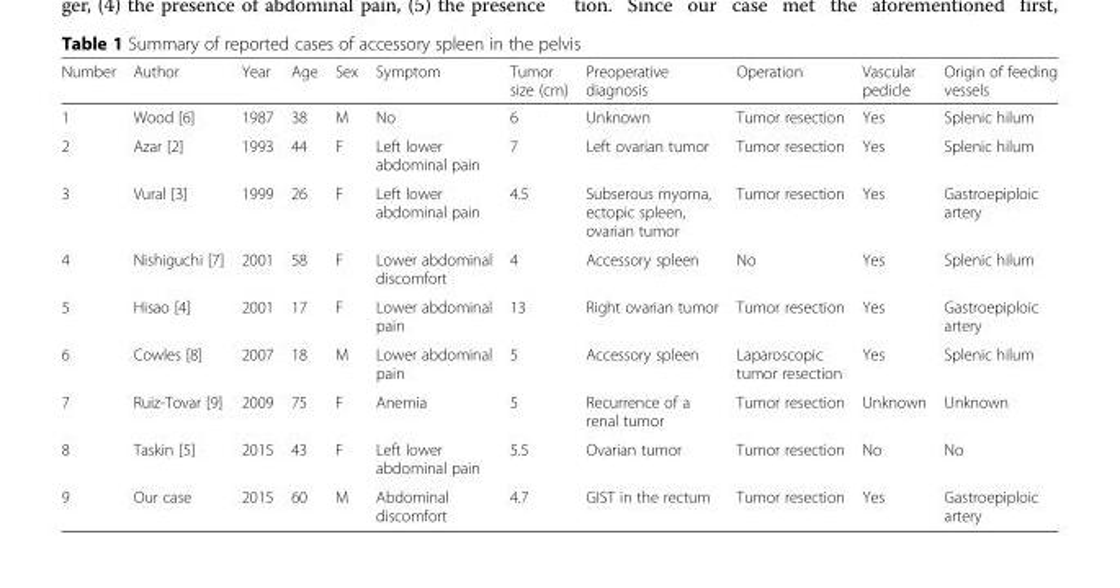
<table><thead><tr><td>Number</td><td>Author</td><td>Year</td><td>Age</td><td>Sex</td><td>Symptom</td><td>Tumor size (cm)</td><td>Preoperative diagnosis</td><td>Operation</td><td>Vascular pedicle</td><td>Origin of feeding vessels</td></tr></thead><tbody><tr><td>1</td><td>Wood [6]</td><td>1987</td><td>38</td><td>M</td><td>No</td><td>6</td><td>Unknown</td><td>Tumor resection</td><td>Yes</td><td>Splenic hilum</td></tr><tr><td>2</td><td>Azar [2]</td><td>1993</td><td>44</td><td>F</td><td>Left lower abdominal pain</td><td>7</td><td>Left ovarian tumor</td><td>Tumor resection</td><td>Yes</td><td>Splenic hilum</td></tr><tr><td>3</td><td>Vural [3]</td><td>1999</td><td>26</td><td>F</td><td>Left lower abdominal pain</td><td>4.5</td><td>Subserous myoma, ectopic spleen, ovarian tumor</td><td>Tumor resection</td><td>Yes</td><td>Gastroepiploic artery</td></tr><tr><td>4</td><td>Nishiguchi [7]</td><td>2001</td><td>58</td><td>F</td><td>Lower abdominal discomfort</td><td>4</td><td>Accessory spleen</td><td>No</td><td>Yes</td><td>Splenic hilum</td></tr><tr><td>5</td><td>Hisao [4]</td><td>2001</td><td>17</td><td>F</td><td>Lower abdominal pain</td><td>13</td><td>Right ovarian tumor</td><td>Tumor resection</td><td>Yes</td><td>Gastroepiploic artery</td></tr><tr><td>6</td><td>Cowles [8]</td><td>2007</td><td>18</td><td>M</td><td>Lower abdominal pain</td><td>5</td><td>Accessory spleen</td><td>Laparoscopic tumor resection</td><td>Yes</td><td>Splenic hilum</td></tr><tr><td>7</td><td>Ruiz-Tovar [9]</td><td>2009</td><td>75</td><td>F</td><td>Anemia</td><td>5</td><td>Recurrence of a renal tumor</td><td>Tumor resection</td><td>Unknown</td><td>Unknown</td></tr><tr><td>8</td><td>Taskin [5]</td><td>2015</td><td>43</td><td>F</td><td>Left lower abdominal pain</td><td>5.5</td><td>Ovarian tumor</td><td>Tumor resection</td><td>No</td><td>No</td></tr><tr><td>9</td><td>Our case</td><td>2015</td><td>60</td><td>M</td><td>Abdominal discomfort</td><td>4.7</td><td>GIST in the rectum</td><td>Tumor resection</td><td>Yes</td><td>Gastroepiploic artery</td></tr></tbody></table>